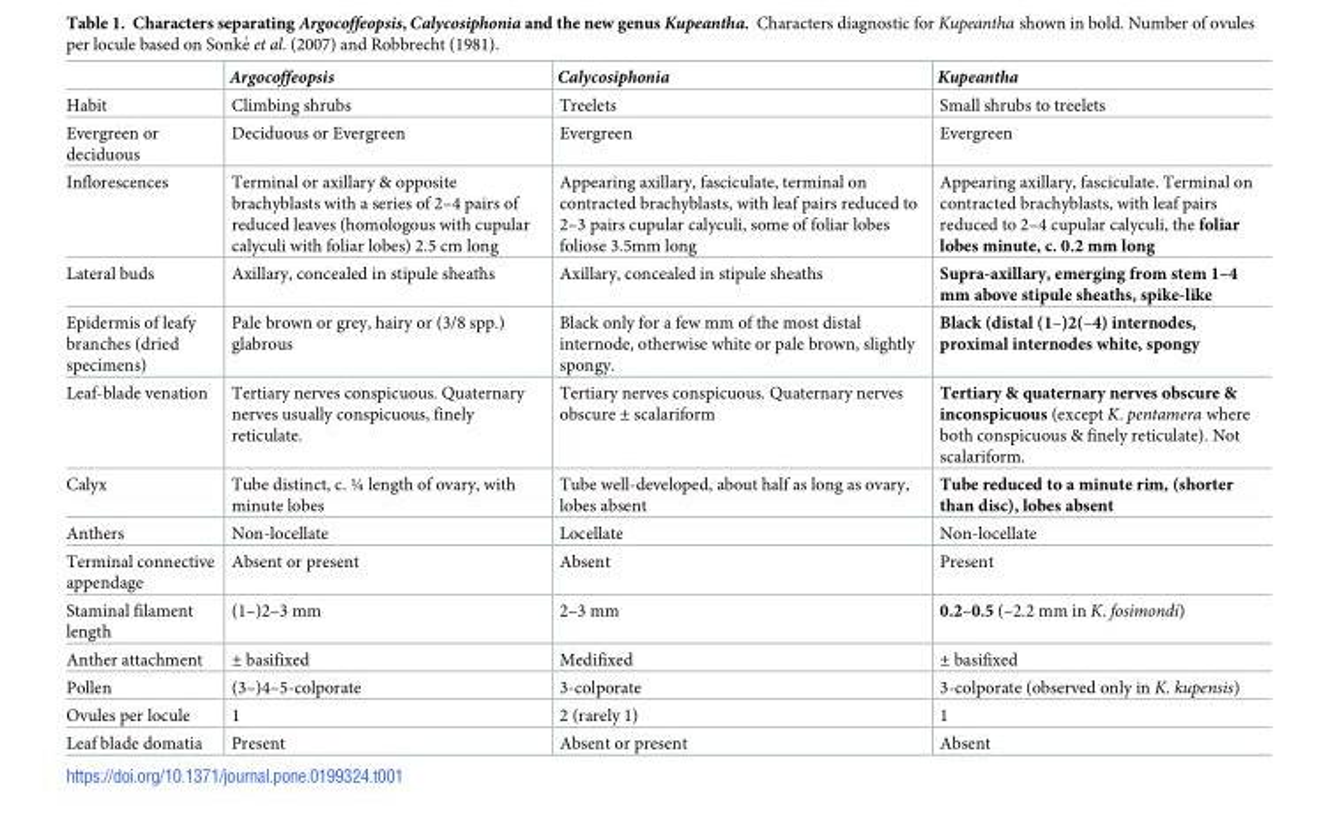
<table><thead><tr><td></td><td>Argocoffeopsis</td><td>Calycosiphonia</td><td>Kupeantha</td></tr></thead><tbody><tr><td>Habit</td><td>Climbing shrubs</td><td>Treelets</td><td>Small shrubs to treelets</td></tr><tr><td>Evergreen or deciduous</td><td>Deciduous or Evergreen</td><td>Evergreen</td><td>Evergreen</td></tr><tr><td>Inflorescences</td><td>Terminal or axillary &amp; opposite brachyblasts with a series of 2–4 pairs of reduced leaves (homologous with cupular calyculi with foliar lobes) 2.5 cm long</td><td>Appearing axillary, fasciculate, terminal on contracted brachyblasts, with leaf pairs reduced to 2–3 pairs cupular calyculi, some of foliar lobes foliose 3.5mm long</td><td>Appearing axillary, fasciculate. Terminal on contracted brachyblasts, with leaf pairs reduced to 2–4 cupular calyculi, the foliar lobes minute, c. 0.2 mm long</td></tr><tr><td>Lateral buds</td><td>Axillary, concealed in stipule sheaths</td><td>Axillary, concealed in stipule sheaths</td><td>Supra-axillary, emerging from stem 1–4 mm above stipule sheaths, spike-like</td></tr><tr><td>Epidermis of leafy branches (dried specimens)</td><td>Pale brown or grey, hairy or (3/8 spp.) glabrous</td><td>Black only for a few mm of the most distal internode, otherwise white or pale brown, slightly spongy.</td><td>Black (distal (1–)2(–4) internodes, proximal internodes white, spongy</td></tr><tr><td>Leaf-blade venation</td><td>Tertiary nerves conspicuous. Quaternary nerves usually conspicuous, finely reticulate.</td><td>Tertiary nerves conspicuous. Quaternary nerves obscure ± scalariform</td><td>Tertiary &amp; quaternary nerves obscure &amp; inconspicuous (except K. pentamera where both conspicuous &amp; finely reticulate). Not scalariform.</td></tr><tr><td>Calyx</td><td>Tube distinct, c. ¼ length of ovary, with minute lobes</td><td>Tube well-developed, about half as long as ovary, lobes absent</td><td>Tube reduced to a minute rim, (shorter than disc), lobes absent</td></tr><tr><td>Anthers</td><td>Non-locellate</td><td>Locellate</td><td>Non-locellate</td></tr><tr><td>Terminal connective appendage</td><td>Absent or present</td><td>Absent</td><td>Present</td></tr><tr><td>Staminal filament length</td><td>(1–)2–3 mm</td><td>2–3 mm</td><td>0.2–0.5 (–2.2 mm in K. fosimondi)</td></tr><tr><td>Anther attachment</td><td>± basifixed</td><td>Medifixed</td><td>± basifixed</td></tr><tr><td>Pollen</td><td>(3–)4–5-colporate</td><td>3-colporate</td><td>3-colporate (observed only in K. kupensis)</td></tr><tr><td>Ovules per locule</td><td>1</td><td>2 (rarely 1)</td><td>1</td></tr><tr><td>Leaf blade domatia</td><td>Present</td><td>Absent or present</td><td>Absent</td></tr></tbody></table>